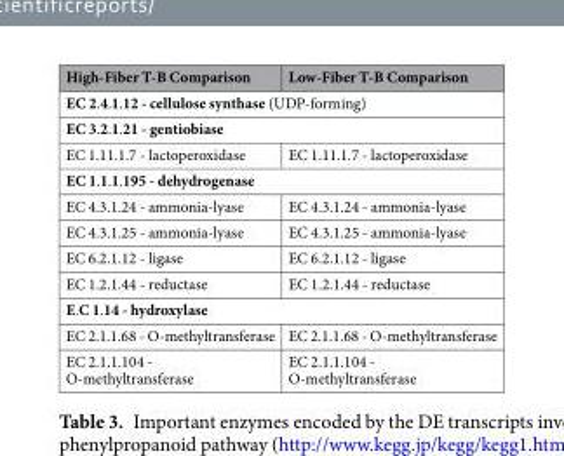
<table><thead><tr><td>High-Fiber T-B Comparison</td><td>Low-Fiber T-B Comparison</td></tr></thead><tbody><tr><td colspan="2">EC 2.4.1.12 - cellulose synthase (UDP-forming)</td></tr><tr><td colspan="2">EC 3.2.1.21 - gentiobiase</td></tr><tr><td>EC 1.11.1.7 - lactoperoxidase</td><td>EC 1.11.1.7 - lactoperoxidase</td></tr><tr><td colspan="2">EC 1.1.1.195 - dehydrogenase</td></tr><tr><td>EC 4.3.1.24 - ammonia-lyase</td><td>EC 4.3.1.24 - ammonia-lyase</td></tr><tr><td>EC 4.3.1.25 - ammonia-lyase</td><td>EC 4.3.1.25 - ammonia-lyase</td></tr><tr><td>EC 6.2.1.12 - ligase</td><td>EC 6.2.1.12 - ligase</td></tr><tr><td>EC 1.2.1.44 - reductase</td><td>EC 1.2.1.44 - reductase</td></tr><tr><td colspan="2">E.C 1.14 - hydroxylase</td></tr><tr><td>EC 2.1.1.68 - O-methyltransferase</td><td>EC 2.1.1.68 - O-methyltransferase</td></tr><tr><td>EC 2.1.1.104 - O-methyltransferase</td><td>EC 2.1.1.104 - O-methyltransferase</td></tr></tbody></table>